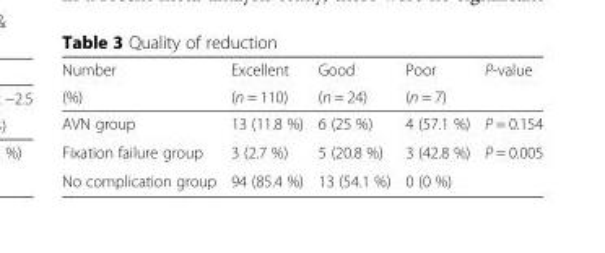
<table><thead><tr><td rowspan="2">Number (%)</td><td rowspan="2">Excellent (n = 110)</td><td rowspan="2">Good (n = 24)</td><td rowspan="2">Poor (n = 7)</td><td rowspan="2">P-value</td></tr><tr></tr></thead><tbody><tr><td>AVN group</td><td>13 (11.8 %)</td><td>6 (25 %)</td><td>4 (57.1 %)</td><td>P = 0.154</td></tr><tr><td>Fixation failure group</td><td>3 (2.7 %)</td><td>5 (20.8 %)</td><td>3 (42.8 %)</td><td>P = 0.005</td></tr><tr><td>No complication group</td><td>94 (85.4 %)</td><td>13 (54.1 %)</td><td>0 (0 %)</td><td></td></tr></tbody></table>